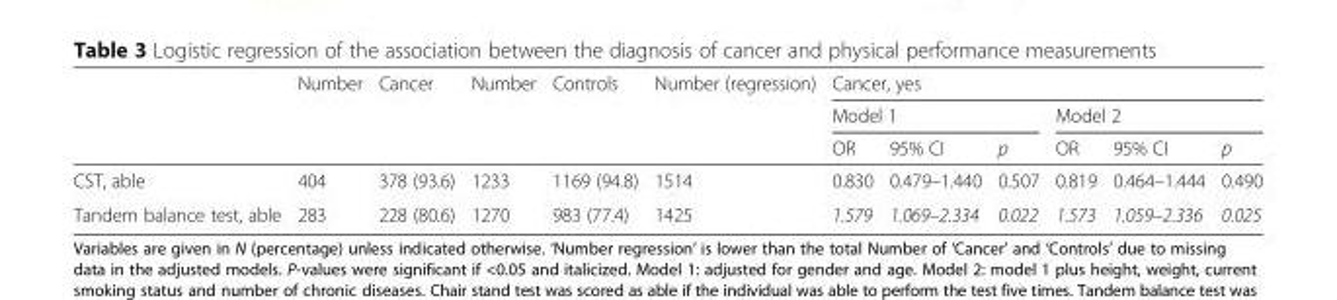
<table><thead><tr><td rowspan="3"></td><td rowspan="3">Number</td><td rowspan="3">Cancer</td><td rowspan="3">Number</td><td rowspan="3">Controls</td><td rowspan="3">Number (regression)</td><td colspan="6">Cancer, yes</td></tr><tr><td colspan="3">Model 1</td><td colspan="3">Model 2</td></tr><tr><td>OR</td><td>95% CI</td><td>p</td><td>OR</td><td>95% CI</td><td>p</td></tr></thead><tbody><tr><td>CST, able</td><td>404</td><td>378 (93.6)</td><td>1233</td><td>1169 (94.8)</td><td>1514</td><td>0.830</td><td>0.479–1.440</td><td>0.507</td><td>0.819</td><td>0.464–1.444</td><td>0.490</td></tr><tr><td>Tandem balance test, able</td><td>283</td><td>228 (80.6)</td><td>1270</td><td>983 (77.4)</td><td>1425</td><td>1.579</td><td>1.069–2.334</td><td>0.022</td><td>1.573</td><td>1.059–2.336</td><td>0.025</td></tr></tbody></table>